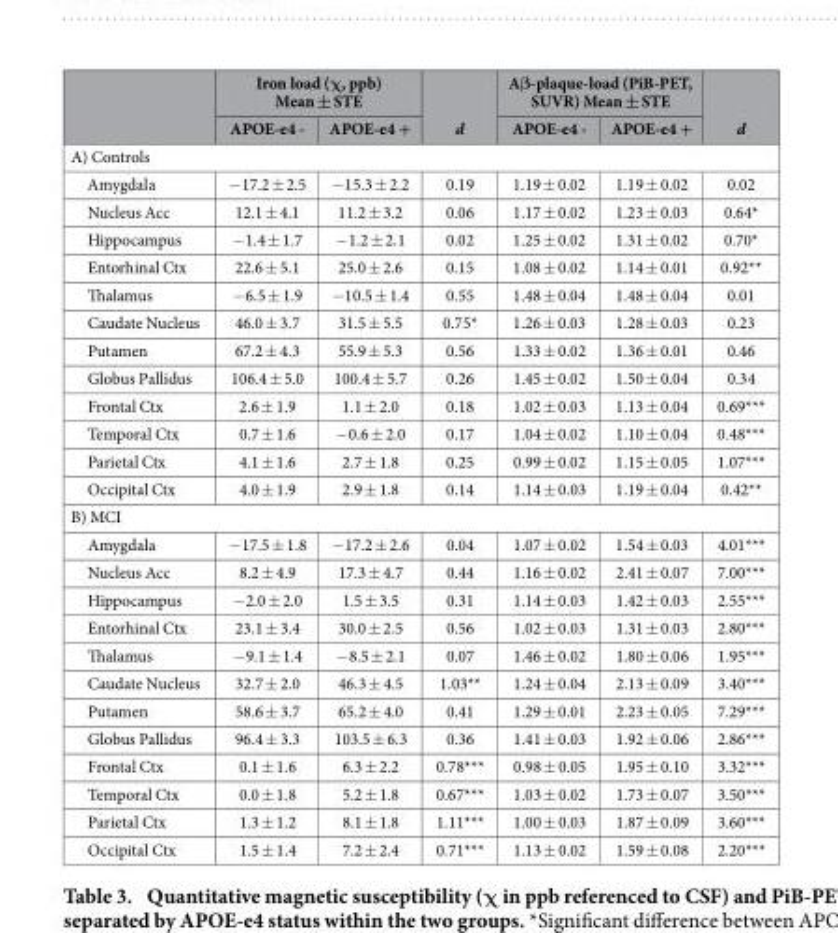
<table><thead><tr><td rowspan="2"></td><td colspan="2">Iron load (χ, ppb) Mean ± STE</td><td rowspan="2">d</td><td colspan="2">Aβ-plaque-load (PiB-PET, SUVR) Mean ± STE</td><td rowspan="2">d</td></tr><tr><td>APOE-e4 -</td><td>APOE-e4 +</td><td>APOE-e4 -</td><td>APOE-e4 +</td></tr></thead><tbody><tr><td colspan="7">A) Controls</td></tr><tr><td>Amygdala</td><td>− 17.2 ± 2.5</td><td>− 15.3 ± 2.2</td><td>0.19</td><td>1.19 ± 0.02</td><td>1.19 ± 0.02</td><td>0.02</td></tr><tr><td>Nucleus Acc</td><td>12.1 ± 4.1</td><td>11.2 ± 3.2</td><td>0.06</td><td>1.17 ± 0.02</td><td>1.23 ± 0.03</td><td>0.64*</td></tr><tr><td>Hippocampus</td><td>− 1.4 ± 1.7</td><td>− 1.2 ± 2.1</td><td>0.02</td><td>1.25 ± 0.02</td><td>1.31 ± 0.02</td><td>0.70*</td></tr><tr><td>Entorhinal Ctx</td><td>22.6 ± 5.1</td><td>25.0 ± 2.6</td><td>0.15</td><td>1.08 ± 0.02</td><td>1.14 ± 0.01</td><td>0.92**</td></tr><tr><td>Thalamus</td><td>− 6.5 ± 1.9</td><td>− 10.5 ± 1.4</td><td>0.55</td><td>1.48 ± 0.04</td><td>1.48 ± 0.04</td><td>0.01</td></tr><tr><td>Caudate Nucleus</td><td>46.0 ± 3.7</td><td>31.5 ± 5.5</td><td>0.75*</td><td>1.26 ± 0.03</td><td>1.28 ± 0.03</td><td>0.23</td></tr><tr><td>Putamen</td><td>67.2 ± 4.3</td><td>55.9 ± 5.3</td><td>0.56</td><td>1.33 ± 0.02</td><td>1.36 ± 0.01</td><td>0.46</td></tr><tr><td>Globus Pallidus</td><td>106.4 ± 5.0</td><td>100.4 ± 5.7</td><td>0.26</td><td>1.45 ± 0.02</td><td>1.50 ± 0.04</td><td>0.34</td></tr><tr><td>Frontal Ctx</td><td>2.6 ± 1.9</td><td>1.1 ± 2.0</td><td>0.18</td><td>1.02 ± 0.03</td><td>1.13 ± 0.04</td><td>0.69***</td></tr><tr><td>Temporal Ctx</td><td>0.7 ± 1.6</td><td>− 0.6 ± 2.0</td><td>0.17</td><td>1.04 ± 0.02</td><td>1.10 ± 0.04</td><td>0.48***</td></tr><tr><td>Parietal Ctx</td><td>4.1 ± 1.6</td><td>2.7 ± 1.8</td><td>0.25</td><td>0.99 ± 0.02</td><td>1.15 ± 0.05</td><td>1.07***</td></tr><tr><td>Occipital Ctx</td><td>4.0 ± 1.9</td><td>2.9 ± 1.8</td><td>0.14</td><td>1.14 ± 0.03</td><td>1.19 ± 0.04</td><td>0.42**</td></tr><tr><td colspan="7">B) MCI</td></tr><tr><td>Amygdala</td><td>− 17.5 ± 1.8</td><td>− 17.2 ± 2.6</td><td>0.04</td><td>1.07 ± 0.02</td><td>1.54 ± 0.03</td><td>4.01***</td></tr><tr><td>Nucleus Acc</td><td>8.2 ± 4.9</td><td>17.3 ± 4.7</td><td>0.44</td><td>1.16 ± 0.02</td><td>2.41 ± 0.07</td><td>7.00***</td></tr><tr><td>Hippocampus</td><td>− 2.0 ± 2.0</td><td>1.5 ± 3.5</td><td>0.31</td><td>1.14 ± 0.03</td><td>1.42 ± 0.03</td><td>2.55***</td></tr><tr><td>Entorhinal Ctx</td><td>23.1 ± 3.4</td><td>30.0 ± 2.5</td><td>0.56</td><td>1.02 ± 0.03</td><td>1.31 ± 0.03</td><td>2.80***</td></tr><tr><td>Thalamus</td><td>− 9.1 ± 1.4</td><td>− 8.5 ± 2.1</td><td>0.07</td><td>1.46 ± 0.02</td><td>1.80 ± 0.06</td><td>1.95***</td></tr><tr><td>Caudate Nucleus</td><td>32.7 ± 2.0</td><td>46.3 ± 4.5</td><td>1.03**</td><td>1.24 ± 0.04</td><td>2.13 ± 0.09</td><td>3.40***</td></tr><tr><td>Putamen</td><td>58.6 ± 3.7</td><td>65.2 ± 4.0</td><td>0.41</td><td>1.29 ± 0.01</td><td>2.23 ± 0.05</td><td>7.29***</td></tr><tr><td>Globus Pallidus</td><td>96.4 ± 3.3</td><td>103.5 ± 6.3</td><td>0.36</td><td>1.41 ± 0.03</td><td>1.92 ± 0.06</td><td>2.86***</td></tr><tr><td>Frontal Ctx</td><td>0.1 ± 1.6</td><td>6.3 ± 2.2</td><td>0.78***</td><td>0.98 ± 0.05</td><td>1.95 ± 0.10</td><td>3.32***</td></tr><tr><td>Temporal Ctx</td><td>0.0 ± 1.8</td><td>5.2 ± 1.8</td><td>0.67***</td><td>1.03 ± 0.02</td><td>1.73 ± 0.07</td><td>3.50***</td></tr><tr><td>Parietal Ctx</td><td>1.3 ± 1.2</td><td>8.1 ± 1.8</td><td>1.11***</td><td>1.00 ± 0.03</td><td>1.87 ± 0.09</td><td>3.60***</td></tr><tr><td>Occipital Ctx</td><td>1.5 ± 1.4</td><td>7.2 ± 2.4</td><td>0.71***</td><td>1.13 ± 0.02</td><td>1.59 ± 0.08</td><td>2.20***</td></tr></tbody></table>